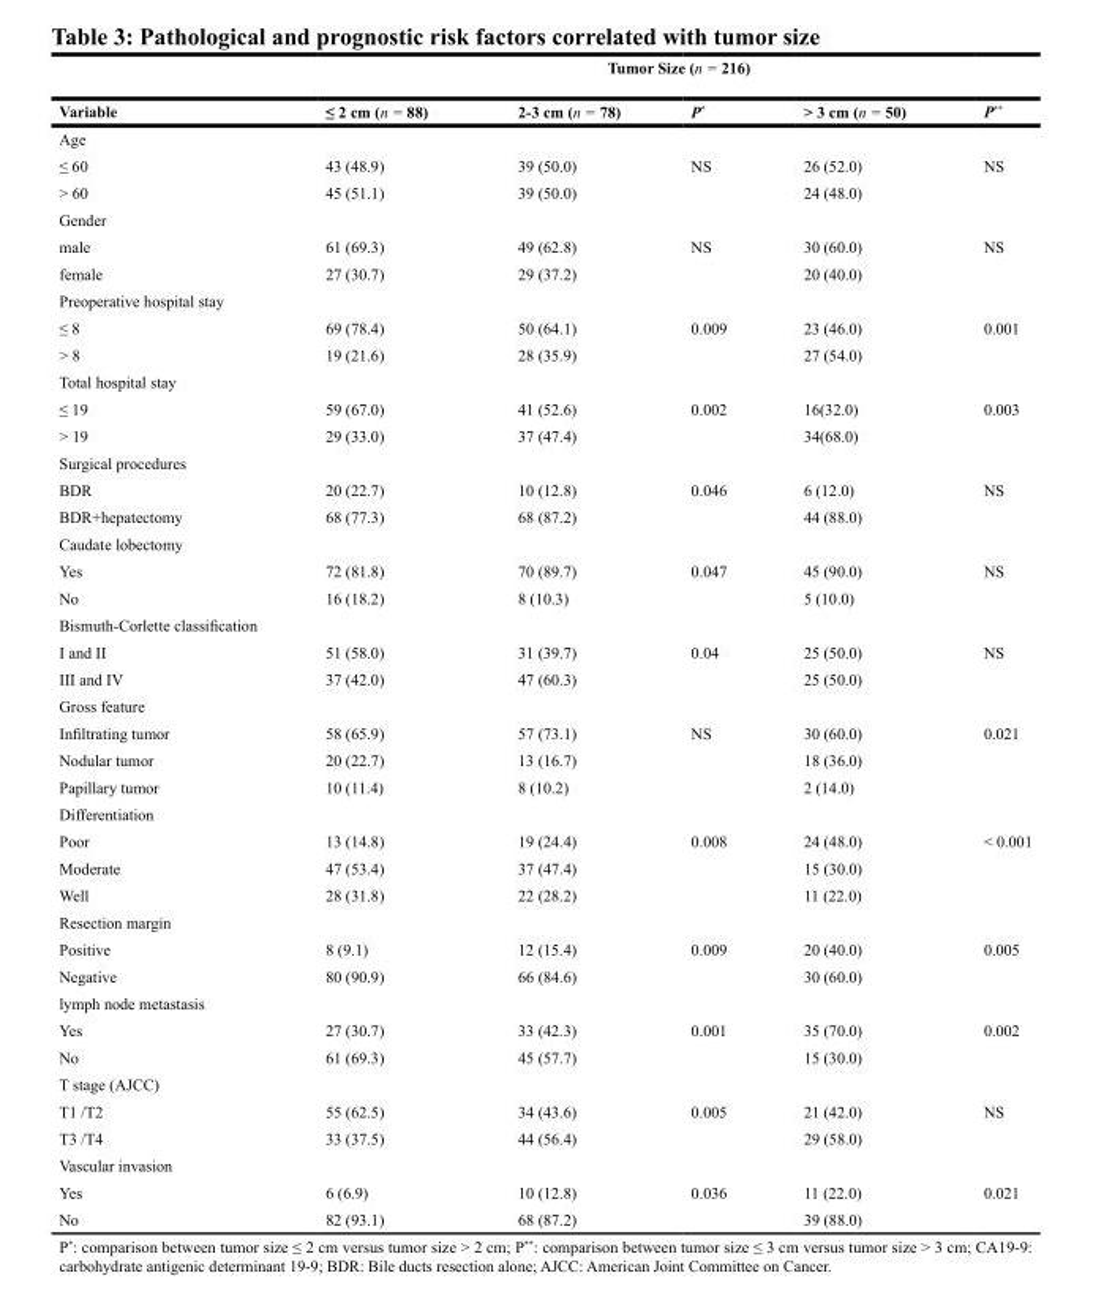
<table><thead><tr><td rowspan="2">Variable</td><td colspan="5">Tumor Size (n = 216)</td></tr><tr><td>≤ 2 cm (n = 88)</td><td>2-3 cm (n = 78)</td><td>P*</td><td>&gt; 3 cm (n = 50)</td><td>P**</td></tr></thead><tbody><tr><td colspan="6">Age</td></tr><tr><td>≤ 60</td><td>43 (48.9)</td><td>39 (50.0)</td><td>NS</td><td>26 (52.0)</td><td>NS</td></tr><tr><td>&gt; 60</td><td>45 (51.1)</td><td>39 (50.0)</td><td></td><td>24 (48.0)</td><td></td></tr><tr><td colspan="6">Gender</td></tr><tr><td>male</td><td>61 (69.3)</td><td>49 (62.8)</td><td>NS</td><td>30 (60.0)</td><td>NS</td></tr><tr><td>female</td><td>27 (30.7)</td><td>29 (37.2)</td><td></td><td>20 (40.0)</td><td></td></tr><tr><td colspan="6">Preoperative hospital stay</td></tr><tr><td>≤ 8</td><td>69 (78.4)</td><td>50 (64.1)</td><td>0.009</td><td>23 (46.0)</td><td>0.001</td></tr><tr><td>&gt; 8</td><td>19 (21.6)</td><td>28 (35.9)</td><td></td><td>27 (54.0)</td><td></td></tr><tr><td colspan="6">Total hospital stay</td></tr><tr><td>≤ 19</td><td>59 (67.0)</td><td>41 (52.6)</td><td>0.002</td><td>16(32.0)</td><td>0.003</td></tr><tr><td>&gt; 19</td><td>29 (33.0)</td><td>37 (47.4)</td><td></td><td>34(68.0)</td><td></td></tr><tr><td colspan="6">Surgical procedures</td></tr><tr><td>BDR</td><td>20 (22.7)</td><td>10 (12.8)</td><td>0.046</td><td>6 (12.0)</td><td>NS</td></tr><tr><td>BDR+hepatectomy</td><td>68 (77.3)</td><td>68 (87.2)</td><td></td><td>44 (88.0)</td><td></td></tr><tr><td colspan="6">Caudate lobectomy</td></tr><tr><td>Yes</td><td>72 (81.8)</td><td>70 (89.7)</td><td>0.047</td><td>45 (90.0)</td><td>NS</td></tr><tr><td>No</td><td>16 (18.2)</td><td>8 (10.3)</td><td></td><td>5 (10.0)</td><td></td></tr><tr><td colspan="6">Bismuth-Corlette classification</td></tr><tr><td>I and II</td><td>51 (58.0)</td><td>31 (39.7)</td><td>0.04</td><td>25 (50.0)</td><td>NS</td></tr><tr><td>III and IV</td><td>37 (42.0)</td><td>47 (60.3)</td><td></td><td>25 (50.0)</td><td></td></tr><tr><td colspan="6">Gross feature</td></tr><tr><td>Infiltrating tumor</td><td>58 (65.9)</td><td>57 (73.1)</td><td>NS</td><td>30 (60.0)</td><td>0.021</td></tr><tr><td>Nodular tumor</td><td>20 (22.7)</td><td>13 (16.7)</td><td></td><td>18 (36.0)</td><td></td></tr><tr><td>Papillary tumor</td><td>10 (11.4)</td><td>8 (10.2)</td><td></td><td>2 (14.0)</td><td></td></tr><tr><td colspan="6">Differentiation</td></tr><tr><td>Poor</td><td>13 (14.8)</td><td>19 (24.4)</td><td>0.008</td><td>24 (48.0)</td><td>&lt; 0.001</td></tr><tr><td>Moderate</td><td>47 (53.4)</td><td>37 (47.4)</td><td></td><td>15 (30.0)</td><td></td></tr><tr><td>Well</td><td>28 (31.8)</td><td>22 (28.2)</td><td></td><td>11 (22.0)</td><td></td></tr><tr><td colspan="6">Resection margin</td></tr><tr><td>Positive</td><td>8 (9.1)</td><td>12 (15.4)</td><td>0.009</td><td>20 (40.0)</td><td>0.005</td></tr><tr><td>Negative</td><td>80 (90.9)</td><td>66 (84.6)</td><td></td><td>30 (60.0)</td><td></td></tr><tr><td colspan="6">lymph node metastasis</td></tr><tr><td>Yes</td><td>27 (30.7)</td><td>33 (42.3)</td><td>0.001</td><td>35 (70.0)</td><td>0.002</td></tr><tr><td>No</td><td>61 (69.3)</td><td>45 (57.7)</td><td></td><td>15 (30.0)</td><td></td></tr><tr><td colspan="6">T stage (AJCC)</td></tr><tr><td>T1 /T2</td><td>55 (62.5)</td><td>34 (43.6)</td><td>0.005</td><td>21 (42.0)</td><td>NS</td></tr><tr><td>T3 /T4</td><td>33 (37.5)</td><td>44 (56.4)</td><td></td><td>29 (58.0)</td><td></td></tr><tr><td colspan="6">Vascular invasion</td></tr><tr><td>Yes</td><td>6 (6.9)</td><td>10 (12.8)</td><td>0.036</td><td>11 (22.0)</td><td>0.021</td></tr><tr><td>No</td><td>82 (93.1)</td><td>68 (87.2)</td><td></td><td>39 (88.0)</td><td></td></tr></tbody></table>